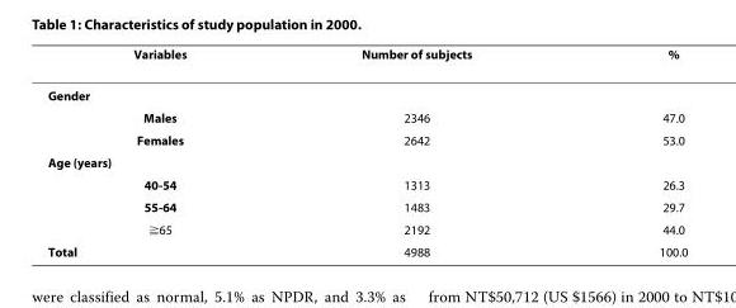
<table><thead><tr><td>Variables</td><td>Number of subjects</td><td>%</td></tr></thead><tbody><tr><td colspan="3">Gender</td></tr><tr><td>Males</td><td>2346</td><td>47.0</td></tr><tr><td>Females</td><td>2642</td><td>53.0</td></tr><tr><td colspan="3">Age (years)</td></tr><tr><td>40-54</td><td>1313</td><td>26.3</td></tr><tr><td>55-64</td><td>1483</td><td>29.7</td></tr><tr><td>≧65</td><td>2192</td><td>44.0</td></tr><tr><td>Total</td><td>4988</td><td>100.0</td></tr></tbody></table>